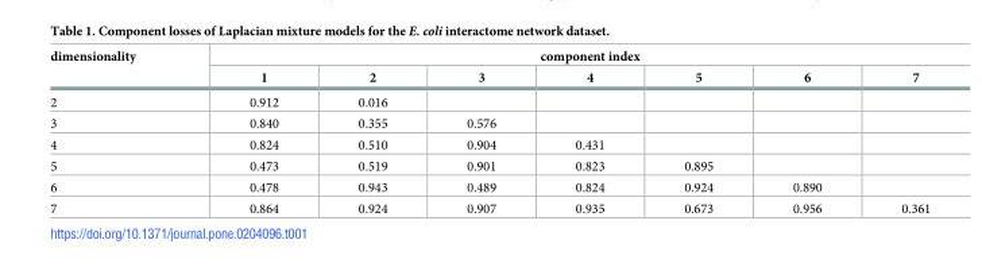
<table><thead><tr><td rowspan="2">dimensionality</td><td colspan="7">component index</td></tr><tr><td>1</td><td>2</td><td>3</td><td>4</td><td>5</td><td>6</td><td>7</td></tr></thead><tbody><tr><td>2</td><td>0.912</td><td>0.016</td><td></td><td></td><td></td><td></td><td></td></tr><tr><td>3</td><td>0.840</td><td>0.355</td><td>0.576</td><td></td><td></td><td></td><td></td></tr><tr><td>4</td><td>0.824</td><td>0.510</td><td>0.904</td><td>0.431</td><td></td><td></td><td></td></tr><tr><td>5</td><td>0.473</td><td>0.519</td><td>0.901</td><td>0.823</td><td>0.895</td><td></td><td></td></tr><tr><td>6</td><td>0.478</td><td>0.943</td><td>0.489</td><td>0.824</td><td>0.924</td><td>0.890</td><td></td></tr><tr><td>7</td><td>0.864</td><td>0.924</td><td>0.907</td><td>0.935</td><td>0.673</td><td>0.956</td><td>0.361</td></tr></tbody></table>